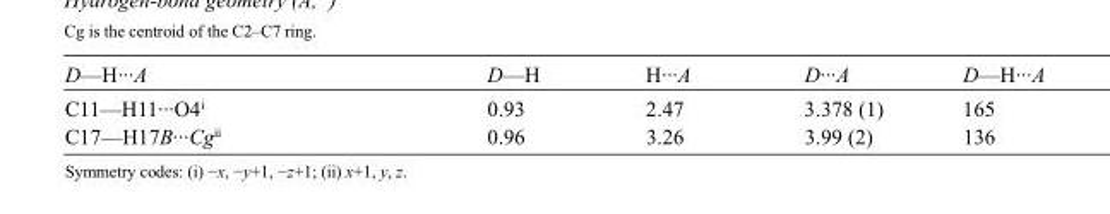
<table><tbody><tr><td>D—H···A</td><td>D—H</td><td>H···A</td><td>D···A</td><td>D—H···A</td></tr><tr><td>C11—H11···O4<sup>i</sup></td><td>0.93</td><td>2.47</td><td>3.378 (1)</td><td>165</td></tr><tr><td>C17—H17B···Cg<sup>ii</sup></td><td>0.96</td><td>3.26</td><td>3.99 (2)</td><td>136</td></tr></tbody></table>